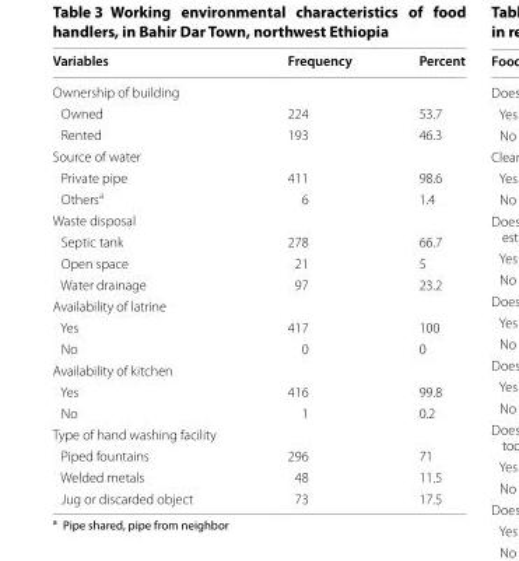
<table><thead><tr><td>Variables</td><td>Frequency</td><td>Percent</td></tr></thead><tbody><tr><td colspan="3">Ownership of building</td></tr><tr><td>Owned</td><td>224</td><td>53.7</td></tr><tr><td>Rented</td><td>193</td><td>46.3</td></tr><tr><td colspan="3">Source of water</td></tr><tr><td>Private pipe</td><td>411</td><td>98.6</td></tr><tr><td>Others<sup>a</sup></td><td>6</td><td>1.4</td></tr><tr><td colspan="3">Waste disposal</td></tr><tr><td>Septic tank</td><td>278</td><td>66.7</td></tr><tr><td>Open space</td><td>21</td><td>5</td></tr><tr><td>Water drainage</td><td>97</td><td>23.2</td></tr><tr><td colspan="3">Availability of latrine</td></tr><tr><td>Yes</td><td>417</td><td>100</td></tr><tr><td>No</td><td>0</td><td>0</td></tr><tr><td colspan="3">Availability of kitchen</td></tr><tr><td>Yes</td><td>416</td><td>99.8</td></tr><tr><td>No</td><td>1</td><td>0.2</td></tr><tr><td colspan="3">Type of hand washing facility</td></tr><tr><td>Piped fountains</td><td>296</td><td>71</td></tr><tr><td>Welded metals</td><td>48</td><td>11.5</td></tr><tr><td>Jug or discarded object</td><td>73</td><td>17.5</td></tr></tbody></table>